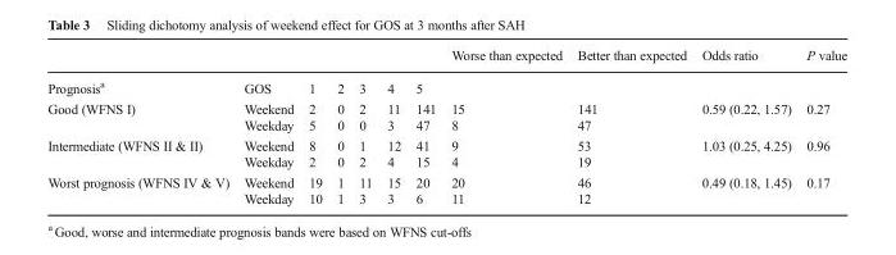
<table><thead><tr><td></td><td></td><td></td><td></td><td></td><td></td><td></td><td>Worse than expected</td><td>Better than expected</td><td>Odds ratio</td><td>P value</td></tr></thead><tbody><tr><td>Prognosis<sup>a</sup></td><td>GOS</td><td>1</td><td>2</td><td>3</td><td>4</td><td>5</td><td></td><td></td><td></td><td></td></tr><tr><td rowspan="2">Good (WFNS I)</td><td>Weekend</td><td>2</td><td>0</td><td>2</td><td>11</td><td>141</td><td>15</td><td>141</td><td rowspan="2">0.59 (0.22, 1.57)</td><td rowspan="2">0.27</td></tr><tr><td>Weekday</td><td>5</td><td>0</td><td>0</td><td>3</td><td>47</td><td>8</td><td>47</td></tr><tr><td rowspan="2">Intermediate (WFNS II &amp; II)</td><td>Weekend</td><td>8</td><td>0</td><td>1</td><td>12</td><td>41</td><td>9</td><td>53</td><td rowspan="2">1.03 (0.25, 4.25)</td><td rowspan="2">0.96</td></tr><tr><td>Weekday</td><td>2</td><td>0</td><td>2</td><td>4</td><td>15</td><td>4</td><td>19</td></tr><tr><td rowspan="2">Worst prognosis (WFNS IV &amp; V)</td><td>Weekend</td><td>19</td><td>1</td><td>11</td><td>15</td><td>20</td><td>20</td><td>46</td><td rowspan="2">0.49 (0.18, 1.45)</td><td rowspan="2">0.17</td></tr><tr><td>Weekday</td><td>10</td><td>1</td><td>3</td><td>3</td><td>6</td><td>11</td><td>12</td></tr></tbody></table>